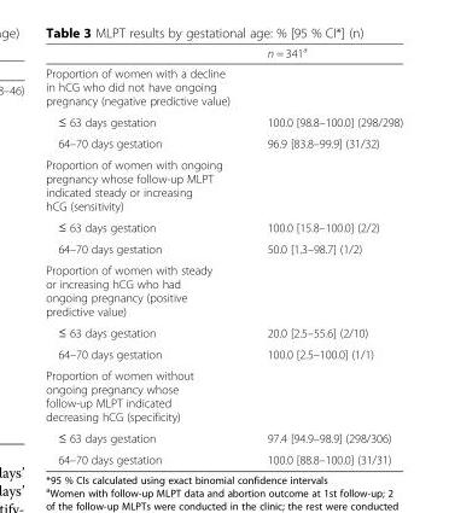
<table><thead><tr><td></td><td>n = 341<sup>a</sup></td></tr></thead><tbody><tr><td colspan="2">Proportion of women with a decline in hCG who did not have ongoing pregnancy (negative predictive value)</td></tr><tr><td>≤ 63 days gestation</td><td>100.0 [98.8–100.0] (298/298)</td></tr><tr><td>64–70 days gestation</td><td>96.9 [83.8–99.9] (31/32)</td></tr><tr><td colspan="2">Proportion of women with ongoing pregnancy whose follow-up MLPT indicated steady or increasing hCG (sensitivity)</td></tr><tr><td>≤ 63 days gestation</td><td>100.0 [15.8–100.0] (2/2)</td></tr><tr><td>64–70 days gestation</td><td>50.0 [1.3–98.7] (1/2)</td></tr><tr><td colspan="2">Proportion of women with steady or increasing hCG who had ongoing pregnancy (positive predictive value)</td></tr><tr><td>≤ 63 days gestation</td><td>20.0 [2.5–55.6] (2/10)</td></tr><tr><td>64–70 days gestation</td><td>100.0 [2.5–100.0] (1/1)</td></tr><tr><td colspan="2">Proportion of women without ongoing pregnancy whose follow-up MLPT indicated decreasing hCG (specificity)</td></tr><tr><td>≤ 63 days gestation</td><td>97.4 [94.9–98.9] (298/306)</td></tr><tr><td>64–70 days gestation</td><td>100.0 [88.8–100.0] (31/31)</td></tr></tbody></table>